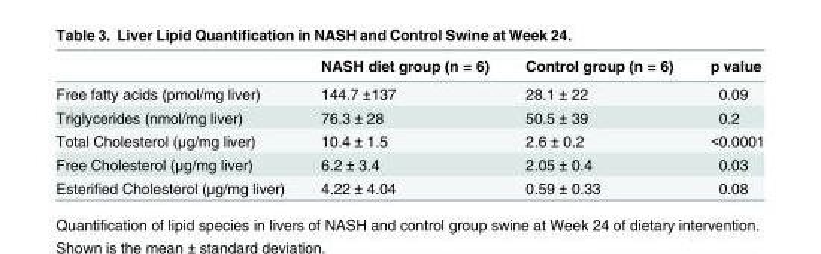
<table><thead><tr><td></td><td>NASH diet group (n = 6)</td><td>Control group (n = 6)</td><td>p value</td></tr></thead><tbody><tr><td>Free fatty acids (pmol/mg liver)</td><td>144.7 ±137</td><td>28.1 ± 22</td><td>0.09</td></tr><tr><td>Triglycerides (nmol/mg liver)</td><td>76.3 ± 28</td><td>50.5 ± 39</td><td>0.2</td></tr><tr><td>Total Cholesterol (μg/mg liver)</td><td>10.4 ± 1.5</td><td>2.6 ± 0.2</td><td>&lt;0.0001</td></tr><tr><td>Free Cholesterol (μg/mg liver)</td><td>6.2 ± 3.4</td><td>2.05 ± 0.4</td><td>0.03</td></tr><tr><td>Esterified Cholesterol (μg/mg liver)</td><td>4.22 ± 4.04</td><td>0.59 ± 0.33</td><td>0.08</td></tr></tbody></table>